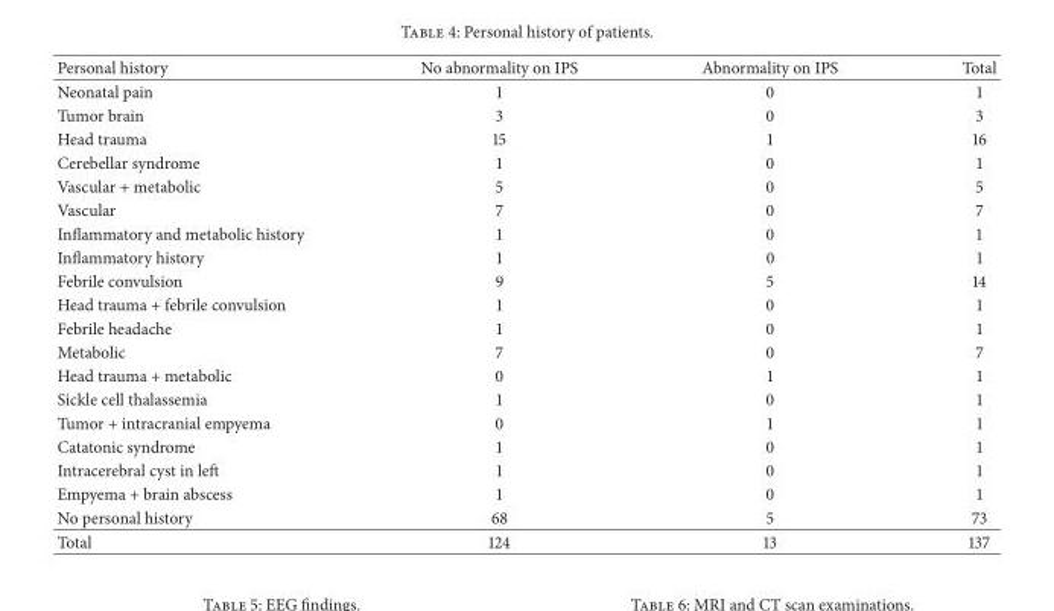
<table><thead><tr><td>Personal history</td><td>No abnormality on IPS</td><td>Abnormality on IPS</td><td>Total</td></tr></thead><tbody><tr><td>Neonatal pain</td><td>1</td><td>0</td><td>1</td></tr><tr><td>Tumor brain</td><td>3</td><td>0</td><td>3</td></tr><tr><td>Head trauma</td><td>15</td><td>1</td><td>16</td></tr><tr><td>Cerebellar syndrome</td><td>1</td><td>0</td><td>1</td></tr><tr><td>Vascular + metabolic</td><td>5</td><td>0</td><td>5</td></tr><tr><td>Vascular</td><td>7</td><td>0</td><td>7</td></tr><tr><td>Inflammatory and metabolic history</td><td>1</td><td>0</td><td>1</td></tr><tr><td>Inflammatory history</td><td>1</td><td>0</td><td>1</td></tr><tr><td>Febrile convulsion</td><td>9</td><td>5</td><td>14</td></tr><tr><td>Head trauma + febrile convulsion</td><td>1</td><td>0</td><td>1</td></tr><tr><td>Febrile headache</td><td>1</td><td>0</td><td>1</td></tr><tr><td>Metabolic</td><td>7</td><td>0</td><td>7</td></tr><tr><td>Head trauma + metabolic</td><td>0</td><td>1</td><td>1</td></tr><tr><td>Sickle cell thalassemia</td><td>1</td><td>0</td><td>1</td></tr><tr><td>Tumor + intracranial empyema</td><td>0</td><td>1</td><td>1</td></tr><tr><td>Catatonic syndrome</td><td>1</td><td>0</td><td>1</td></tr><tr><td>Intracerebral cyst in left</td><td>1</td><td>0</td><td>1</td></tr><tr><td>Empyema + brain abscess</td><td>1</td><td>0</td><td>1</td></tr><tr><td>No personal history</td><td>68</td><td>5</td><td>73</td></tr><tr><td>Total</td><td>124</td><td>13</td><td>137</td></tr></tbody></table>